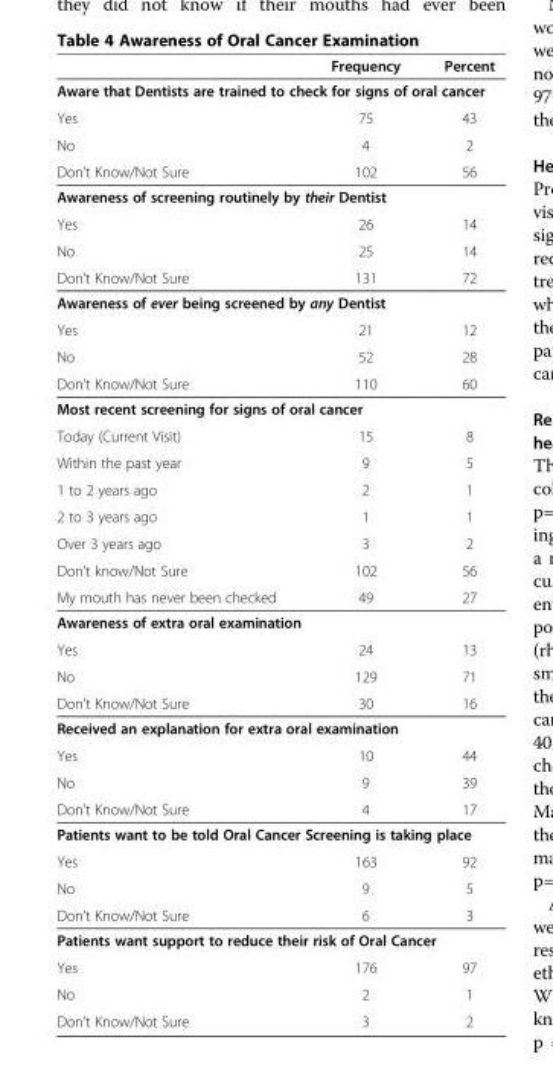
<table><thead><tr><td></td><td>Frequency</td><td>Percent</td></tr></thead><tbody><tr><td colspan="3">Aware that Dentists are trained to check for signs of oral cancer</td></tr><tr><td>Yes</td><td>75</td><td>43</td></tr><tr><td>No</td><td>4</td><td>2</td></tr><tr><td>Don’t Know/Not Sure</td><td>102</td><td>56</td></tr><tr><td colspan="3">Awareness of screening routinely by their Dentist</td></tr><tr><td>Yes</td><td>26</td><td>14</td></tr><tr><td>No</td><td>25</td><td>14</td></tr><tr><td>Don’t Know/Not Sure</td><td>131</td><td>72</td></tr><tr><td colspan="3">Awareness of ever being screened by any Dentist</td></tr><tr><td>Yes</td><td>21</td><td>12</td></tr><tr><td>No</td><td>52</td><td>28</td></tr><tr><td>Don’t Know/Not Sure</td><td>110</td><td>60</td></tr><tr><td colspan="3">Most recent screening for signs of oral cancer</td></tr><tr><td>Today (Current Visit)</td><td>15</td><td>8</td></tr><tr><td>Within the past year</td><td>9</td><td>5</td></tr><tr><td>1 to 2 years ago</td><td>2</td><td>1</td></tr><tr><td>2 to 3 years ago</td><td>1</td><td>1</td></tr><tr><td>Over 3 years ago</td><td>3</td><td>2</td></tr><tr><td>Don’t know/Not Sure</td><td>102</td><td>56</td></tr><tr><td>My mouth has never been checked</td><td>49</td><td>27</td></tr><tr><td colspan="3">Awareness of extra oral examination</td></tr><tr><td>Yes</td><td>24</td><td>13</td></tr><tr><td>No</td><td>129</td><td>71</td></tr><tr><td>Don’t Know/Not Sure</td><td>30</td><td>16</td></tr><tr><td colspan="3">Received an explanation for extra oral examination</td></tr><tr><td>Yes</td><td>10</td><td>44</td></tr><tr><td>No</td><td>9</td><td>39</td></tr><tr><td>Don’t Know/Not Sure</td><td>4</td><td>17</td></tr><tr><td colspan="3">Patients want to be told Oral Cancer Screening is taking place</td></tr><tr><td>Yes</td><td>163</td><td>92</td></tr><tr><td>No</td><td>9</td><td>5</td></tr><tr><td>Don’t Know/Not Sure</td><td>6</td><td>3</td></tr><tr><td colspan="3">Patients want support to reduce their risk of Oral Cancer</td></tr><tr><td>Yes</td><td>176</td><td>97</td></tr><tr><td>No</td><td>2</td><td>1</td></tr><tr><td>Don’t Know/Not Sure</td><td>3</td><td>2</td></tr></tbody></table>